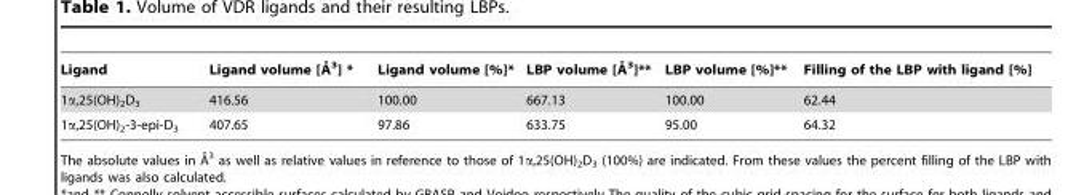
<table><thead><tr><td>Ligand</td><td>Ligand volume [A˚ 3] *</td><td>Ligand volume [%]*</td><td>LBP volume [A˚ 3]**</td><td>LBP volume [%]**</td><td>Filling of the LBP with ligand [%]</td></tr></thead><tbody><tr><td>1α,25(OH)<sub>2</sub>D<sub>3</sub></td><td>416.56</td><td>100.00</td><td>667.13</td><td>100.00</td><td>62.44</td></tr><tr><td>1α,25(OH)<sub>2</sub>-3-epi-D<sub>3</sub></td><td>407.65</td><td>97.86</td><td>633.75</td><td>95.00</td><td>64.32</td></tr></tbody></table>